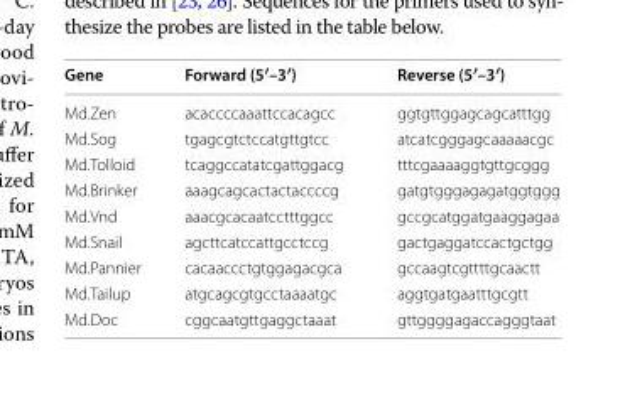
<table><thead><tr><td>Gene</td><td>Forward (5′–3′)</td><td>Reverse (5′–3′)</td></tr></thead><tbody><tr><td>Md.Zen</td><td>acaccccaaattccacagcc</td><td>ggtgttggagcagcatttgg</td></tr><tr><td>Md.Sog</td><td>tgagcgtctccatgttgtcc</td><td>atcatcgggagcaaaaacgc</td></tr><tr><td>Md.Tolloid</td><td>tcaggccatatcgattggacg</td><td>tttcgaaaaggtgttgcggg</td></tr><tr><td>Md.Brinker</td><td>aaagcagcactactaccccg</td><td>gatgtgggagagatggtggg</td></tr><tr><td>Md.Vnd</td><td>aaacgcacaatcctttggcc</td><td>gccgcatggatgaaggagaa</td></tr><tr><td>Md.Snail</td><td>agcttcatccattgcctccg</td><td>gactgaggatccactgctgg</td></tr><tr><td>Md.Pannier</td><td>cacaaccctgtggagacgca</td><td>gccaagtcgttttgcaactt</td></tr><tr><td>Md.Tailup</td><td>atgcagcgtgcctaaaatgc</td><td>aggtgatgaatttgcgtt</td></tr><tr><td>Md.Doc</td><td>cggcaatgttgaggctaaat</td><td>gttggggagaccagggtaat</td></tr></tbody></table>